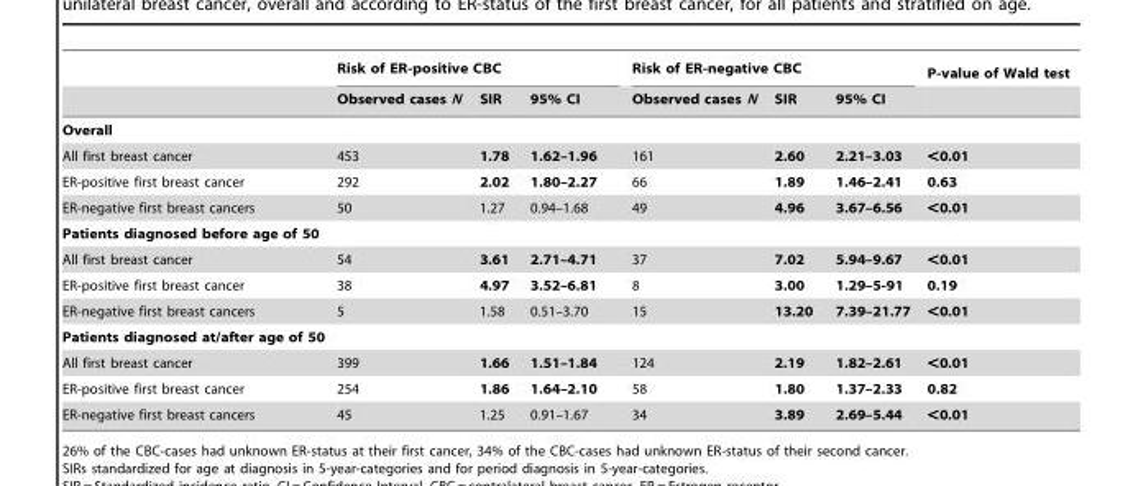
<table><thead><tr><td rowspan="2"></td><td colspan="3">Risk of ER-positive CBC</td><td colspan="3">Risk of ER-negative CBC</td><td rowspan="2">P-value of Wald test</td></tr><tr><td>Observed cases N</td><td>SIR</td><td>95% CI</td><td>Observed cases N</td><td>SIR</td><td>95% CI</td></tr></thead><tbody><tr><td colspan="8">Overall</td></tr><tr><td>All first breast cancer</td><td>453</td><td>1.78</td><td>1.62–1.96</td><td>161</td><td>2.60</td><td>2.21–3.03</td><td>&lt;0.01</td></tr><tr><td>ER-positive first breast cancer</td><td>292</td><td>2.02</td><td>1.80–2.27</td><td>66</td><td>1.89</td><td>1.46–2.41</td><td>0.63</td></tr><tr><td>ER-negative first breast cancers</td><td>50</td><td>1.27</td><td>0.94–1.68</td><td>49</td><td>4.96</td><td>3.67–6.56</td><td>&lt;0.01</td></tr><tr><td colspan="8">Patients diagnosed before age of 50</td></tr><tr><td>All first breast cancer</td><td>54</td><td>3.61</td><td>2.71–4.71</td><td>37</td><td>7.02</td><td>5.94–9.67</td><td>&lt;0.01</td></tr><tr><td>ER-positive first breast cancer</td><td>38</td><td>4.97</td><td>3.52–6.81</td><td>8</td><td>3.00</td><td>1.29–5-91</td><td>0.19</td></tr><tr><td>ER-negative first breast cancers</td><td>5</td><td>1.58</td><td>0.51–3.70</td><td>15</td><td>13.20</td><td>7.39–21.77</td><td>&lt;0.01</td></tr><tr><td colspan="8">Patients diagnosed at/after age of 50</td></tr><tr><td>All first breast cancer</td><td>399</td><td>1.66</td><td>1.51–1.84</td><td>124</td><td>2.19</td><td>1.82–2.61</td><td>&lt;0.01</td></tr><tr><td>ER-positive first breast cancer</td><td>254</td><td>1.86</td><td>1.64–2.10</td><td>58</td><td>1.80</td><td>1.37–2.33</td><td>0.82</td></tr><tr><td>ER-negative first breast cancers</td><td>45</td><td>1.25</td><td>0.91–1.67</td><td>34</td><td>3.89</td><td>2.69–5.44</td><td>&lt;0.01</td></tr></tbody></table>